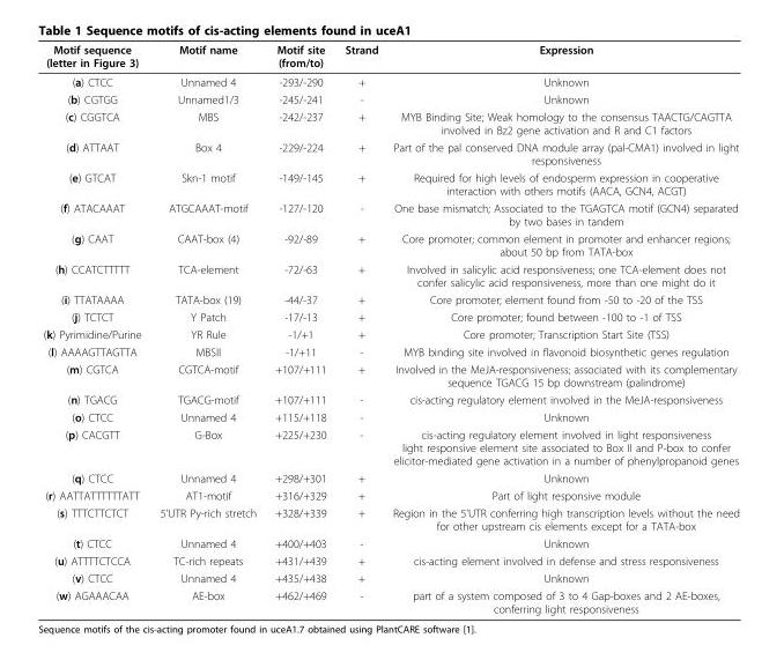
<table><thead><tr><td>Motif sequence (letter in Figure 3)</td><td>Motif name</td><td>Motif site (from/to)</td><td>Strand</td><td>Expression</td></tr></thead><tbody><tr><td>(a) CTCC</td><td>Unnamed 4</td><td>-293/-290</td><td>+</td><td>Unknown</td></tr><tr><td>(b) CGTGG</td><td>Unnamed1/3</td><td>-245/-241</td><td>-</td><td>Unknown</td></tr><tr><td>(c) CGGTCA</td><td>MBS</td><td>-242/-237</td><td>+</td><td>MYB Binding Site; Weak homology to the consensus TAACTG/CAGTTA involved in Bz2 gene activation and R and C1 factors</td></tr><tr><td>(d) ATTAAT</td><td>Box 4</td><td>-229/-224</td><td>+</td><td>Part of the pal conserved DNA module array (pal-CMA1) involved in light responsiveness</td></tr><tr><td>(e) GTCAT</td><td>Skn-1 motif</td><td>-149/-145</td><td>+</td><td>Required for high levels of endosperm expression in cooperative interaction with others motifs (AACA, GCN4, ACGT)</td></tr><tr><td>(f) ATACAAAT</td><td>ATGCAAAT-motif</td><td>-127/-120</td><td>-</td><td>One base mismatch; Associated to the TGAGTCA motif (GCN4) separated by two bases in tandem</td></tr><tr><td>(g) CAAT</td><td>CAAT-box (4)</td><td>-92/-89</td><td>+</td><td>Core promoter; common element in promoter and enhancer regions; about 50 bp from TATA-box</td></tr><tr><td>(h) CCATCTTTTT</td><td>TCA-element</td><td>-72/-63</td><td>+</td><td>Involved in salicylic acid responsiveness; one TCA-element does not confer salicylic acid responsiveness, more than one might do it</td></tr><tr><td>(i) TTATAAAA</td><td>TATA-box (19)</td><td>-44/-37</td><td>+</td><td>Core promoter; element found from -50 to -20 of the TSS</td></tr><tr><td>(j) TCTCT</td><td>Y Patch</td><td>-17/-13</td><td>+</td><td>Core promoter; found between -100 to -1 of TSS</td></tr><tr><td>(k) Pyrimidine/Purine</td><td>YR Rule</td><td>-1/+1</td><td>+</td><td>Core promoter; Transcription Start Site (TSS)</td></tr><tr><td>(l) AAAAGTTAGTTA</td><td>MBSII</td><td>-1/+11</td><td>-</td><td>MYB binding site involved in flavonoid biosynthetic genes regulation</td></tr><tr><td>(m) CGTCA</td><td>CGTCA-motif</td><td>+107/+111</td><td>+</td><td>Involved in the MeJA-responsiveness; associated with its complementary sequence TGACG 15 bp downstream (palindrome)</td></tr><tr><td>(n) TGACG</td><td>TGACG-motif</td><td>+107/+111</td><td>-</td><td>cis-acting regulatory element involved in the MeJA-responsiveness</td></tr><tr><td>(o) CTCC</td><td>Unnamed 4</td><td>+115/+118</td><td>-</td><td>Unknown</td></tr><tr><td>(p) CACGTT</td><td>G-Box</td><td>+225/+230</td><td>-</td><td>cis-acting regulatory element involved in light responsiveness light responsive element site associated to Box II and P-box to confer elicitor-mediated gene activation in a number of phenylpropanoid genes</td></tr><tr><td>(q) CTCC</td><td>Unnamed 4</td><td>+298/+301</td><td>+</td><td>Unknown</td></tr><tr><td>(r) AATTATTTTTTATT</td><td>AT1-motif</td><td>+316/+329</td><td>+</td><td>Part of light responsive module</td></tr><tr><td>(s) TTTCTTCTCT</td><td>5’UTR Py-rich stretch</td><td>+328/+339</td><td>+</td><td>Region in the 5’UTR conferring high transcription levels without the need for other upstream cis elements except for a TATA-box</td></tr><tr><td>(t) CTCC</td><td>Unnamed 4</td><td>+400/+403</td><td>-</td><td>Unknown</td></tr><tr><td>(u) ATTTTCTCCA</td><td>TC-rich repeats</td><td>+431/+439</td><td>+</td><td>cis-acting element involved in defense and stress responsiveness</td></tr><tr><td>(v) CTCC</td><td>Unnamed 4</td><td>+435/+438</td><td>+</td><td>Unknown</td></tr><tr><td>(w) AGAAACAA</td><td>AE-box</td><td>+462/+469</td><td>-</td><td>part of a system composed of 3 to 4 Gap-boxes and 2 AE-boxes, conferring light responsiveness</td></tr></tbody></table>